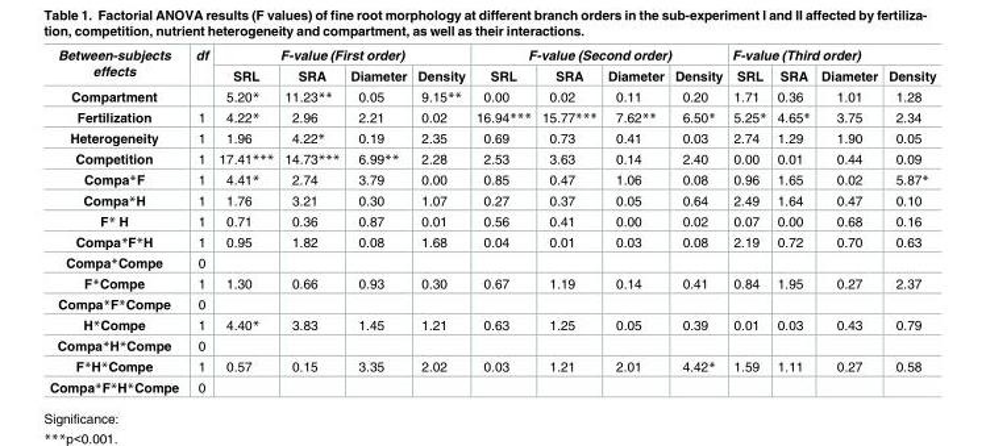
<table><thead><tr><td rowspan="2">Between-subjects effects</td><td rowspan="2">df</td><td colspan="4">F-value (First order)</td><td colspan="4">F-value (Second order)</td><td colspan="4">F-value (Third order)</td></tr><tr><td>SRL</td><td>SRA</td><td>Diameter</td><td>Density</td><td>SRL</td><td>SRA</td><td>Diameter</td><td>Density</td><td>SRL</td><td>SRA</td><td>Diameter</td><td>Density</td></tr></thead><tbody><tr><td>Compartment</td><td></td><td>5.20*</td><td>11.23**</td><td>0.05</td><td>9.15**</td><td>0.00</td><td>0.02</td><td>0.11</td><td>0.20</td><td>1.71</td><td>0.36</td><td>1.01</td><td>1.28</td></tr><tr><td>Fertilization</td><td>1</td><td>4.22*</td><td>2.96</td><td>2.21</td><td>0.02</td><td>16.94***</td><td>15.77***</td><td>7.62**</td><td>6.50*</td><td>5.25*</td><td>4.65*</td><td>3.75</td><td>2.34</td></tr><tr><td>Heterogeneity</td><td>1</td><td>1.96</td><td>4.22*</td><td>0.19</td><td>2.35</td><td>0.69</td><td>0.73</td><td>0.41</td><td>0.03</td><td>2.74</td><td>1.29</td><td>1.90</td><td>0.05</td></tr><tr><td>Competition</td><td>1</td><td>17.41***</td><td>14.73***</td><td>6.99**</td><td>2.28</td><td>2.53</td><td>3.63</td><td>0.14</td><td>2.40</td><td>0.00</td><td>0.01</td><td>0.44</td><td>0.09</td></tr><tr><td>Compa*F</td><td>1</td><td>4.41*</td><td>2.74</td><td>3.79</td><td>0.00</td><td>0.85</td><td>0.47</td><td>1.06</td><td>0.08</td><td>0.96</td><td>1.65</td><td>0.02</td><td>5.87*</td></tr><tr><td>Compa*H</td><td>1</td><td>1.76</td><td>3.21</td><td>0.30</td><td>1.07</td><td>0.27</td><td>0.37</td><td>0.05</td><td>0.64</td><td>2.49</td><td>1.64</td><td>0.47</td><td>0.10</td></tr><tr><td>F* H</td><td>1</td><td>0.71</td><td>0.36</td><td>0.87</td><td>0.01</td><td>0.56</td><td>0.41</td><td>0.00</td><td>0.02</td><td>0.07</td><td>0.00</td><td>0.68</td><td>0.16</td></tr><tr><td>Compa*F*H</td><td>1</td><td>0.95</td><td>1.82</td><td>0.08</td><td>1.68</td><td>0.04</td><td>0.01</td><td>0.03</td><td>0.08</td><td>2.19</td><td>0.72</td><td>0.70</td><td>0.63</td></tr><tr><td>Compa*Compe</td><td>0</td><td></td><td></td><td></td><td></td><td></td><td></td><td></td><td></td><td></td><td></td><td></td><td></td></tr><tr><td>F*Compe</td><td>1</td><td>1.30</td><td>0.66</td><td>0.93</td><td>0.30</td><td>0.67</td><td>1.19</td><td>0.14</td><td>0.41</td><td>0.84</td><td>1.95</td><td>0.27</td><td>2.37</td></tr><tr><td>Compa*F*Compe</td><td>0</td><td></td><td></td><td></td><td></td><td></td><td></td><td></td><td></td><td></td><td></td><td></td><td></td></tr><tr><td>H*Compe</td><td>1</td><td>4.40*</td><td>3.83</td><td>1.45</td><td>1.21</td><td>0.63</td><td>1.25</td><td>0.05</td><td>0.39</td><td>0.01</td><td>0.03</td><td>0.43</td><td>0.79</td></tr><tr><td>Compa*H*Compe</td><td>0</td><td></td><td></td><td></td><td></td><td></td><td></td><td></td><td></td><td></td><td></td><td></td><td></td></tr><tr><td>F*H*Compe</td><td>1</td><td>0.57</td><td>0.15</td><td>3.35</td><td>2.02</td><td>0.03</td><td>1.21</td><td>2.01</td><td>4.42*</td><td>1.59</td><td>1.11</td><td>0.27</td><td>0.58</td></tr><tr><td>Compa*F*H*Compe</td><td>0</td><td></td><td></td><td></td><td></td><td></td><td></td><td></td><td></td><td></td><td></td><td></td><td></td></tr></tbody></table>